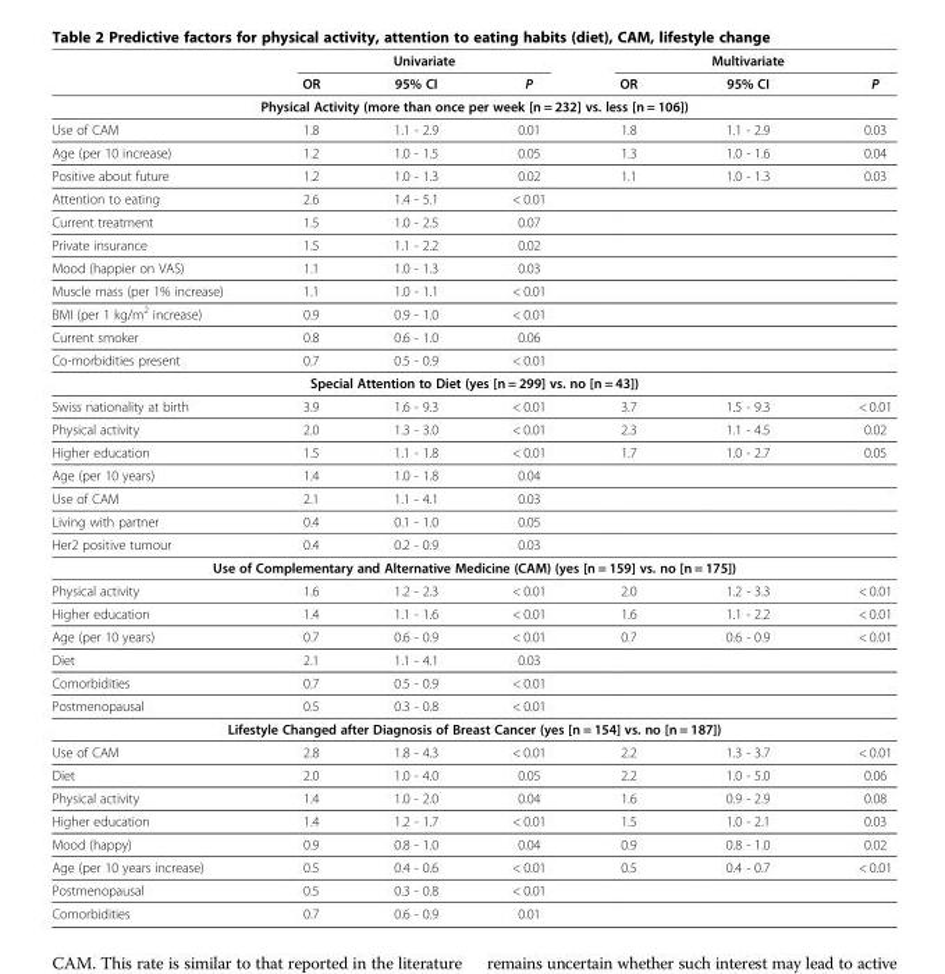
<table><thead><tr><td rowspan="2"></td><td colspan="3">Univariate</td><td rowspan="2">OR</td><td rowspan="2">Multivariate 95% CI</td><td rowspan="2">P</td></tr><tr><td>OR</td><td>95% CI</td><td>P</td></tr></thead><tbody><tr><td colspan="7">Physical Activity (more than once per week [n = 232] vs. less [n = 106])</td></tr><tr><td>Use of CAM</td><td>1.8</td><td>1.1 - 2.9</td><td>0.01</td><td>1.8</td><td>1.1 - 2.9</td><td>0.03</td></tr><tr><td>Age (per 10 increase)</td><td>1.2</td><td>1.0 - 1.5</td><td>0.05</td><td>1.3</td><td>1.0 - 1.6</td><td>0.04</td></tr><tr><td>Positive about future</td><td>1.2</td><td>1.0 - 1.3</td><td>0.02</td><td>1.1</td><td>1.0 - 1.3</td><td>0.03</td></tr><tr><td>Attention to eating</td><td>2.6</td><td>1.4 - 5.1</td><td>&lt; 0.01</td><td></td><td></td><td></td></tr><tr><td>Current treatment</td><td>1.5</td><td>1.0 - 2.5</td><td>0.07</td><td></td><td></td><td></td></tr><tr><td>Private insurance</td><td>1.5</td><td>1.1 - 2.2</td><td>0.02</td><td></td><td></td><td></td></tr><tr><td>Mood (happier on VAS)</td><td>1.1</td><td>1.0 - 1.3</td><td>0.03</td><td></td><td></td><td></td></tr><tr><td>Muscle mass (per 1% increase)</td><td>1.1</td><td>1.0 - 1.1</td><td>&lt; 0.01</td><td></td><td></td><td></td></tr><tr><td>BMI (per 1 kg/m<sup>2</sup> increase)</td><td>0.9</td><td>0.9 - 1.0</td><td>&lt; 0.01</td><td></td><td></td><td></td></tr><tr><td>Current smoker</td><td>0.8</td><td>0.6 - 1.0</td><td>0.06</td><td></td><td></td><td></td></tr><tr><td>Co-morbidities present</td><td>0.7</td><td>0.5 - 0.9</td><td>&lt; 0.01</td><td></td><td></td><td></td></tr><tr><td colspan="7">Special Attention to Diet (yes [n = 299] vs. no [n = 43])</td></tr><tr><td>Swiss nationality at birth</td><td>3.9</td><td>1.6 - 9.3</td><td>&lt; 0.01</td><td>3.7</td><td>1.5 - 9.3</td><td>&lt; 0.01</td></tr><tr><td>Physical activity</td><td>2.0</td><td>1.3 - 3.0</td><td>&lt; 0.01</td><td>2.3</td><td>1.1 - 4.5</td><td>0.02</td></tr><tr><td>Higher education</td><td>1.5</td><td>1.1 - 1.8</td><td>&lt; 0.01</td><td>1.7</td><td>1.0 - 2.7</td><td>0.05</td></tr><tr><td>Age (per 10 years)</td><td>1.4</td><td>1.0 - 1.8</td><td>0.04</td><td></td><td></td><td></td></tr><tr><td>Use of CAM</td><td>2.1</td><td>1.1 - 4.1</td><td>0.03</td><td></td><td></td><td></td></tr><tr><td>Living with partner</td><td>0.4</td><td>0.1 - 1.0</td><td>0.05</td><td></td><td></td><td></td></tr><tr><td>Her2 positive tumour</td><td>0.4</td><td>0.2 - 0.9</td><td>0.03</td><td></td><td></td><td></td></tr><tr><td colspan="7">Use of Complementary and Alternative Medicine (CAM) (yes [n = 159] vs. no [n = 175])</td></tr><tr><td>Physical activity</td><td>1.6</td><td>1.2 - 2.3</td><td>&lt; 0.01</td><td>2.0</td><td>1.2 - 3.3</td><td>&lt; 0.01</td></tr><tr><td>Higher education</td><td>1.4</td><td>1.1 - 1.6</td><td>&lt; 0.01</td><td>1.6</td><td>1.1 - 2.2</td><td>&lt; 0.01</td></tr><tr><td>Age (per 10 years)</td><td>0.7</td><td>0.6 - 0.9</td><td>&lt; 0.01</td><td>0.7</td><td>0.6 - 0.9</td><td>&lt; 0.01</td></tr><tr><td>Diet</td><td>2.1</td><td>1.1 - 4.1</td><td>0.03</td><td></td><td></td><td></td></tr><tr><td>Comorbidities</td><td>0.7</td><td>0.5 - 0.9</td><td>&lt; 0.01</td><td></td><td></td><td></td></tr><tr><td>Postmenopausal</td><td>0.5</td><td>0.3 - 0.8</td><td>&lt; 0.01</td><td></td><td></td><td></td></tr><tr><td colspan="7">Lifestyle Changed after Diagnosis of Breast Cancer (yes [n = 154] vs. no [n = 187])</td></tr><tr><td>Use of CAM</td><td>2.8</td><td>1.8 - 4.3</td><td>&lt; 0.01</td><td>2.2</td><td>1.3 - 3.7</td><td>&lt; 0.01</td></tr><tr><td>Diet</td><td>2.0</td><td>1.0 - 4.0</td><td>0.05</td><td>2.2</td><td>1.0 - 5.0</td><td>0.06</td></tr><tr><td>Physical activity</td><td>1.4</td><td>1.0 - 2.0</td><td>0.04</td><td>1.6</td><td>0.9 - 2.9</td><td>0.08</td></tr><tr><td>Higher education</td><td>1.4</td><td>1.2 - 1.7</td><td>&lt; 0.01</td><td>1.5</td><td>1.0 - 2.1</td><td>0.03</td></tr><tr><td>Mood (happy)</td><td>0.9</td><td>0.8 - 1.0</td><td>0.04</td><td>0.9</td><td>0.8 - 1.0</td><td>0.02</td></tr><tr><td>Age (per 10 years increase)</td><td>0.5</td><td>0.4 - 0.6</td><td>&lt; 0.01</td><td>0.5</td><td>0.4 - 0.7</td><td>&lt; 0.01</td></tr><tr><td>Postmenopausal</td><td>0.5</td><td>0.3 - 0.8</td><td>&lt; 0.01</td><td></td><td></td><td></td></tr><tr><td>Comorbidities</td><td>0.7</td><td>0.6 - 0.9</td><td>0.01</td><td></td><td></td><td></td></tr></tbody></table>